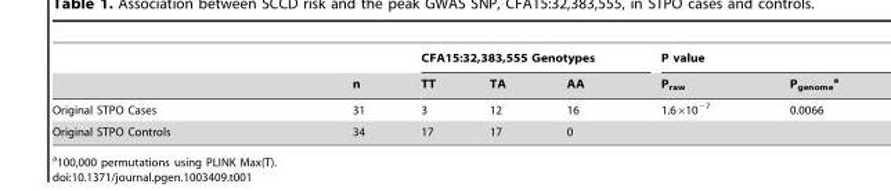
<table><thead><tr><td rowspan="2"></td><td rowspan="2">n</td><td colspan="3">CFA15:32,383,555 Genotypes</td><td colspan="2">P value</td></tr><tr><td>TT</td><td>TA</td><td>AA</td><td>P<sub>raw</sub></td><td>P<sub>genome</sub> a</td></tr></thead><tbody><tr><td>Original STPO Cases</td><td>31</td><td>3</td><td>12</td><td>16</td><td>1.6×10<sup>−7</sup></td><td>0.0066</td></tr><tr><td>Original STPO Controls</td><td>34</td><td>17</td><td>17</td><td>0</td><td></td><td></td></tr></tbody></table>